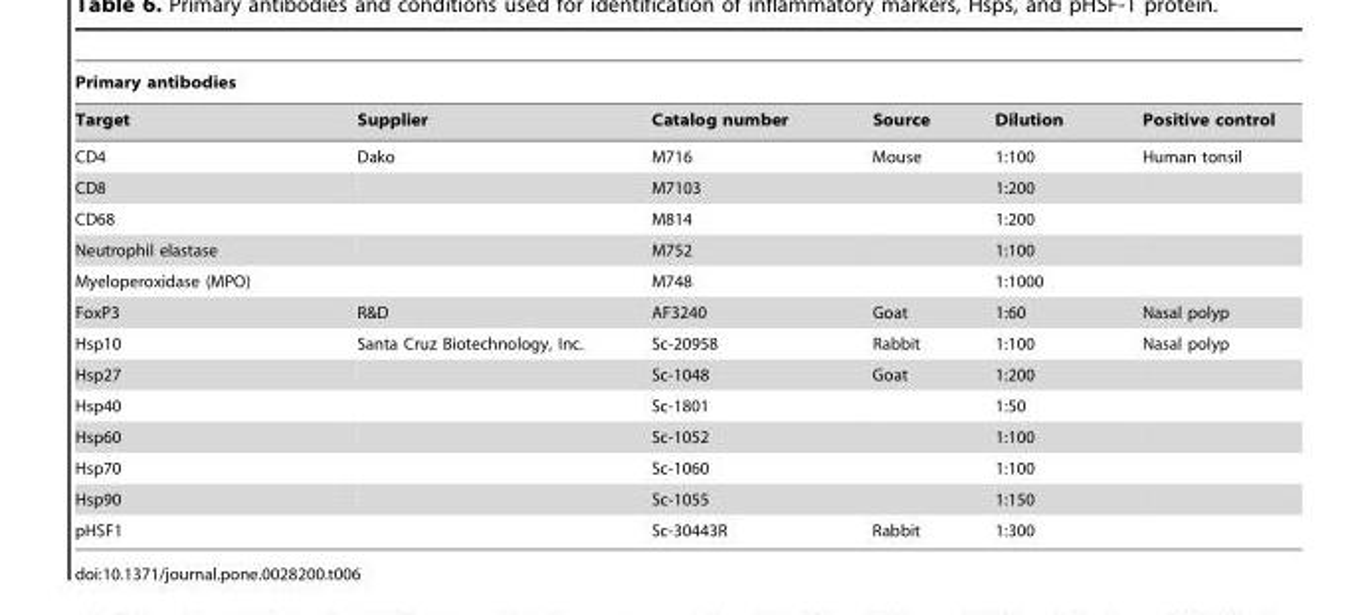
<table><thead><tr><td colspan="6">Primary antibodies</td></tr><tr><td>Target</td><td>Supplier</td><td>Catalog number</td><td>Source</td><td>Dilution</td><td>Positive control</td></tr></thead><tbody><tr><td>CD4</td><td>Dako</td><td>M716</td><td>Mouse</td><td>1:100</td><td>Human tonsil</td></tr><tr><td>CD8</td><td></td><td>M7103</td><td></td><td>1:200</td><td></td></tr><tr><td>CD68</td><td></td><td>M814</td><td></td><td>1:200</td><td></td></tr><tr><td>Neutrophil elastase</td><td></td><td>M752</td><td></td><td>1:100</td><td></td></tr><tr><td>Myeloperoxidase (MPO)</td><td></td><td>M748</td><td></td><td>1:1000</td><td></td></tr><tr><td>FoxP3</td><td>R&amp;D</td><td>AF3240</td><td>Goat</td><td>1:60</td><td>Nasal polyp</td></tr><tr><td>Hsp10</td><td>Santa Cruz Biotechnology, Inc.</td><td>Sc-20958</td><td>Rabbit</td><td>1:100</td><td>Nasal polyp</td></tr><tr><td>Hsp27</td><td></td><td>Sc-1048</td><td>Goat</td><td>1:200</td><td></td></tr><tr><td>Hsp40</td><td></td><td>Sc-1801</td><td></td><td>1:50</td><td></td></tr><tr><td>Hsp60</td><td></td><td>Sc-1052</td><td></td><td>1:100</td><td></td></tr><tr><td>Hsp70</td><td></td><td>Sc-1060</td><td></td><td>1:100</td><td></td></tr><tr><td>Hsp90</td><td></td><td>Sc-1055</td><td></td><td>1:150</td><td></td></tr><tr><td>pHSF1</td><td></td><td>Sc-30443R</td><td>Rabbit</td><td>1:300</td><td></td></tr></tbody></table>